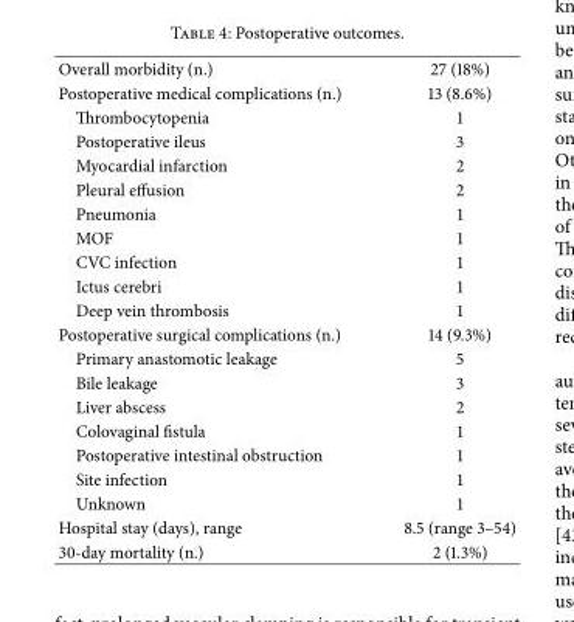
<table><tbody><tr><td>Overall morbidity (n.)</td><td>27 (18%)</td></tr><tr><td>Postoperative medical complications (n.)</td><td>13 (8.6%)</td></tr><tr><td>Thrombocytopenia</td><td>1</td></tr><tr><td>Postoperative ileus</td><td>3</td></tr><tr><td>Myocardial infarction</td><td>2</td></tr><tr><td>Pleural effusion</td><td>2</td></tr><tr><td>Pneumonia</td><td>1</td></tr><tr><td>MOF</td><td>1</td></tr><tr><td>CVC infection</td><td>1</td></tr><tr><td>Ictus cerebri</td><td>1</td></tr><tr><td>Deep vein thrombosis</td><td>1</td></tr><tr><td>Postoperative surgical complications (n.)</td><td>14 (9.3%)</td></tr><tr><td>Primary anastomotic leakage</td><td>5</td></tr><tr><td>Bile leakage</td><td>3</td></tr><tr><td>Liver abscess</td><td>2</td></tr><tr><td>Colovaginal fistula</td><td>1</td></tr><tr><td>Postoperative intestinal obstruction</td><td>1</td></tr><tr><td>Site infection</td><td>1</td></tr><tr><td>Unknown</td><td>1</td></tr><tr><td>Hospital stay (days), range</td><td>8.5 (range 3–54)</td></tr><tr><td>30-day mortality (n.)</td><td>2 (1.3%)</td></tr></tbody></table>